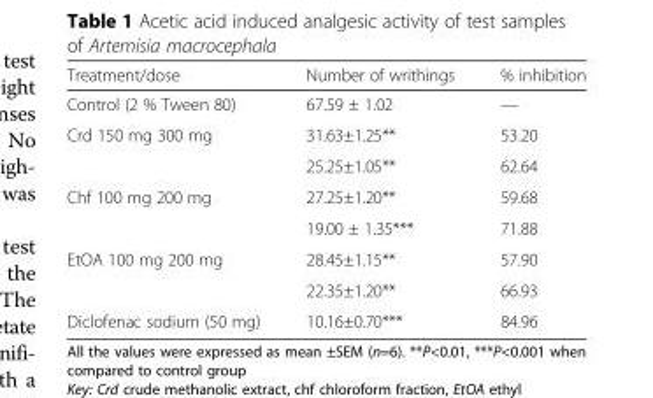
<table><thead><tr><td>Treatment/dose</td><td>Number of writhings</td><td>% inhibition</td></tr></thead><tbody><tr><td>Control (2 % Tween 80)</td><td>67.59 ± 1.02</td><td>—</td></tr><tr><td rowspan="2">Crd 150 mg 300 mg</td><td>31.63±1.25**</td><td>53.20</td></tr><tr><td>25.25±1.05**</td><td>62.64</td></tr><tr><td rowspan="2">Chf 100 mg 200 mg</td><td>27.25±1.20**</td><td>59.68</td></tr><tr><td>19.00 ± 1.35***</td><td>71.88</td></tr><tr><td rowspan="2">EtOA 100 mg 200 mg</td><td>28.45±1.15**</td><td>57.90</td></tr><tr><td>22.35±1.20**</td><td>66.93</td></tr><tr><td>Diclofenac sodium (50 mg)</td><td>10.16±0.70***</td><td>84.96</td></tr></tbody></table>